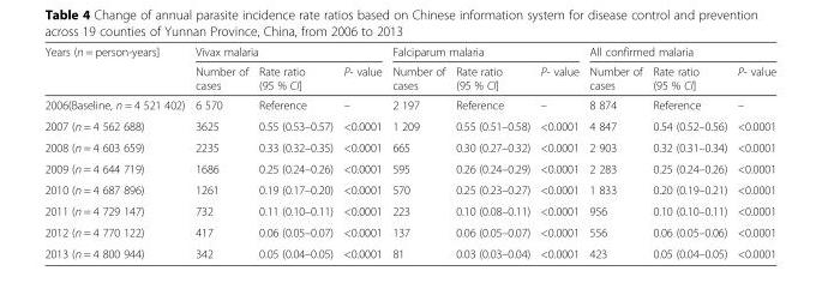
<table><thead><tr><td rowspan="2">Years (n = person-years]</td><td colspan="3">Vivax malaria</td><td colspan="3">Falciparum malaria</td><td colspan="3">All confirmed malaria</td></tr><tr><td>Number of cases</td><td>Rate ratio (95 % CI]</td><td>P- value</td><td>Number of cases</td><td>Rate ratio (95 % CI]</td><td>P- value</td><td>Number of cases</td><td>Rate ratio (95 % CI]</td><td>P- value</td></tr></thead><tbody><tr><td>2006(Baseline, n = 4 521 402)</td><td>6 570</td><td>Reference</td><td>–</td><td>2 197</td><td>Reference</td><td>–</td><td>8 874</td><td>Reference</td><td>–</td></tr><tr><td>2007 (n = 4 562 688)</td><td>3625</td><td>0.55 (0.53–0.57)</td><td>&lt;0.0001</td><td>1 209</td><td>0.55 (0.51–0.58)</td><td>&lt;0.0001</td><td>4 847</td><td>0.54 (0.52–0.56)</td><td>&lt;0.0001</td></tr><tr><td>2008 (n = 4 603 659)</td><td>2235</td><td>0.33 (0.32–0.35)</td><td>&lt;0.0001</td><td>665</td><td>0.30 (0.27–0.32)</td><td>&lt;0.0001</td><td>2 903</td><td>0.32 (0.31–0.34)</td><td>&lt;0.0001</td></tr><tr><td>2009 (n = 4 644 719)</td><td>1686</td><td>0.25 (0.24–0.26)</td><td>&lt;0.0001</td><td>595</td><td>0.26 (0.24–0.29)</td><td>&lt;0.0001</td><td>2 283</td><td>0.25 (0.24–0.26)</td><td>&lt;0.0001</td></tr><tr><td>2010 (n = 4 687 896)</td><td>1261</td><td>0.19 (0.17–0.20)</td><td>&lt;0.0001</td><td>570</td><td>0.25 (0.23–0.27)</td><td>&lt;0.0001</td><td>1 833</td><td>0.20 (0.19–0.21)</td><td>&lt;0.0001</td></tr><tr><td>2011 (n = 4 729 147)</td><td>732</td><td>0.11 (0.10–0.11)</td><td>&lt;0.0001</td><td>223</td><td>0.10 (0.08–0.11)</td><td>&lt;0.0001</td><td>956</td><td>0.10 (0.10–0.11)</td><td>&lt;0.0001</td></tr><tr><td>2012 (n = 4 770 122)</td><td>417</td><td>0.06 (0.05–0.07)</td><td>&lt;0.0001</td><td>137</td><td>0.06 (0.05–0.07)</td><td>&lt;0.0001</td><td>556</td><td>0.06 (0.05–0.06)</td><td>&lt;0.0001</td></tr><tr><td>2013 (n = 4 800 944)</td><td>342</td><td>0.05 (0.04–0.05)</td><td>&lt;0.0001</td><td>81</td><td>0.03 (0.03–0.04)</td><td>&lt;0.0001</td><td>423</td><td>0.05 (0.04–0.05)</td><td>&lt;0.0001</td></tr></tbody></table>